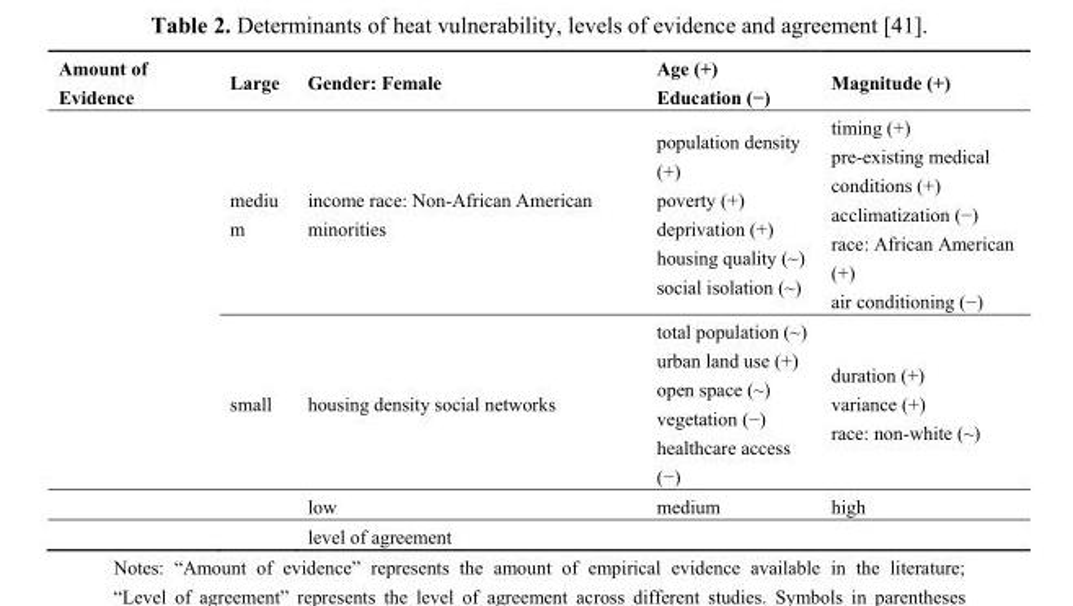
<table><thead><tr><td>Amount of Evidence</td><td>Large</td><td>Gender: Female</td><td>Age (+) Education (−)</td><td>Magnitude (+)</td></tr></thead><tbody><tr><td rowspan="2"></td><td>mediu m</td><td>income race: Non-African American minorities</td><td>population density (+) poverty (+) deprivation (+) housing quality (~) social isolation (~)</td><td>timing (+) pre-existing medical conditions (+) acclimatization (−) race: African American (+) air conditioning (−)</td></tr><tr><td>small</td><td>housing density social networks</td><td>total population (~) urban land use (+) open space (~) vegetation (−) healthcare access (−)</td><td>duration (+) variance (+) race: non-white (~)</td></tr><tr><td></td><td></td><td>low</td><td>medium</td><td>high</td></tr><tr><td></td><td></td><td colspan="3">level of agreement</td></tr></tbody></table>